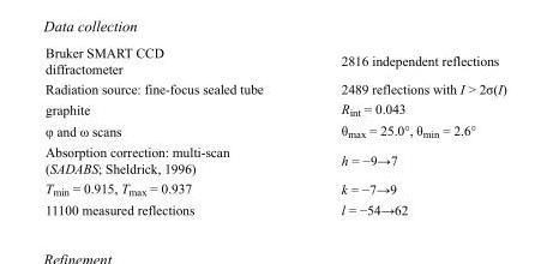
<table><tbody><tr><td>Bruker SMART CCD diffractometer</td><td>2816 independent reflections</td></tr><tr><td>Radiation source: fine-focus sealed tube</td><td>2489 reflections with I &gt; 2σ(I)</td></tr><tr><td>graphite</td><td>R<sub>int</sub> = 0.043</td></tr><tr><td>φ and ω scans</td><td>θ<sub>max</sub> = 25.0°, θ<sub>min</sub> = 2.6°</td></tr><tr><td>Absorption correction: multi-scan (SADABS; Sheldrick, 1996)</td><td>h = −9→7</td></tr><tr><td>T<sub>min</sub> = 0.915, T<sub>max</sub> = 0.937</td><td>k = −7→9</td></tr><tr><td>11100 measured reflections</td><td>l = −54→62</td></tr></tbody></table>